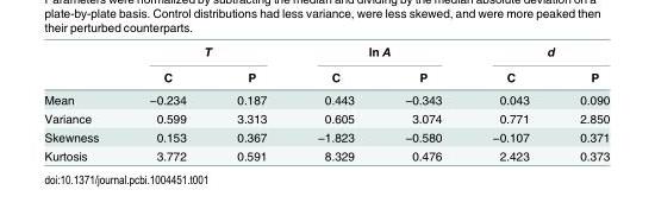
<table><thead><tr><td rowspan="2"></td><td colspan="2">T</td><td colspan="2">ln A</td><td colspan="2">d</td></tr><tr><td>C</td><td>P</td><td>C</td><td>P</td><td>C</td><td>P</td></tr></thead><tbody><tr><td>Mean</td><td>−0.234</td><td>0.187</td><td>0.443</td><td>−0.343</td><td>0.043</td><td>0.090</td></tr><tr><td>Variance</td><td>0.599</td><td>3.313</td><td>0.605</td><td>3.074</td><td>0.771</td><td>2.850</td></tr><tr><td>Skewness</td><td>0.153</td><td>0.367</td><td>−1.823</td><td>−0.580</td><td>−0.107</td><td>0.371</td></tr><tr><td>Kurtosis</td><td>3.772</td><td>0.591</td><td>8.329</td><td>0.476</td><td>2.423</td><td>0.373</td></tr></tbody></table>